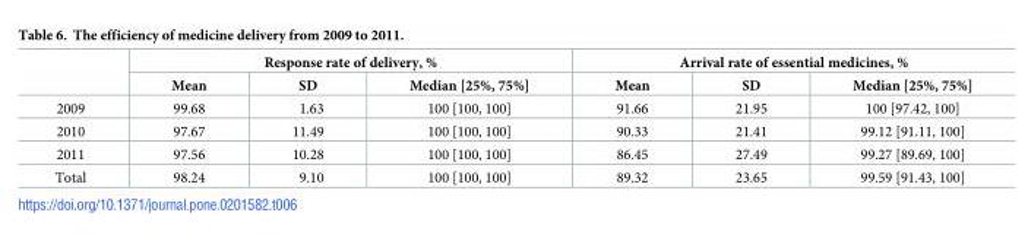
<table><thead><tr><td rowspan="2"></td><td colspan="3">Response rate of delivery, %</td><td colspan="3">Arrival rate of essential medicines, %</td></tr><tr><td>Mean</td><td>SD</td><td>Median [25%, 75%]</td><td>Mean</td><td>SD</td><td>Median [25%, 75%]</td></tr></thead><tbody><tr><td>2009</td><td>99.68</td><td>1.63</td><td>100 [100, 100]</td><td>91.66</td><td>21.95</td><td>100 [97.42, 100]</td></tr><tr><td>2010</td><td>97.67</td><td>11.49</td><td>100 [100, 100]</td><td>90.33</td><td>21.41</td><td>99.12 [91.11, 100]</td></tr><tr><td>2011</td><td>97.56</td><td>10.28</td><td>100 [100, 100]</td><td>86.45</td><td>27.49</td><td>99.27 [89.69, 100]</td></tr><tr><td>Total</td><td>98.24</td><td>9.10</td><td>100 [100, 100]</td><td>89.32</td><td>23.65</td><td>99.59 [91.43, 100]</td></tr></tbody></table>